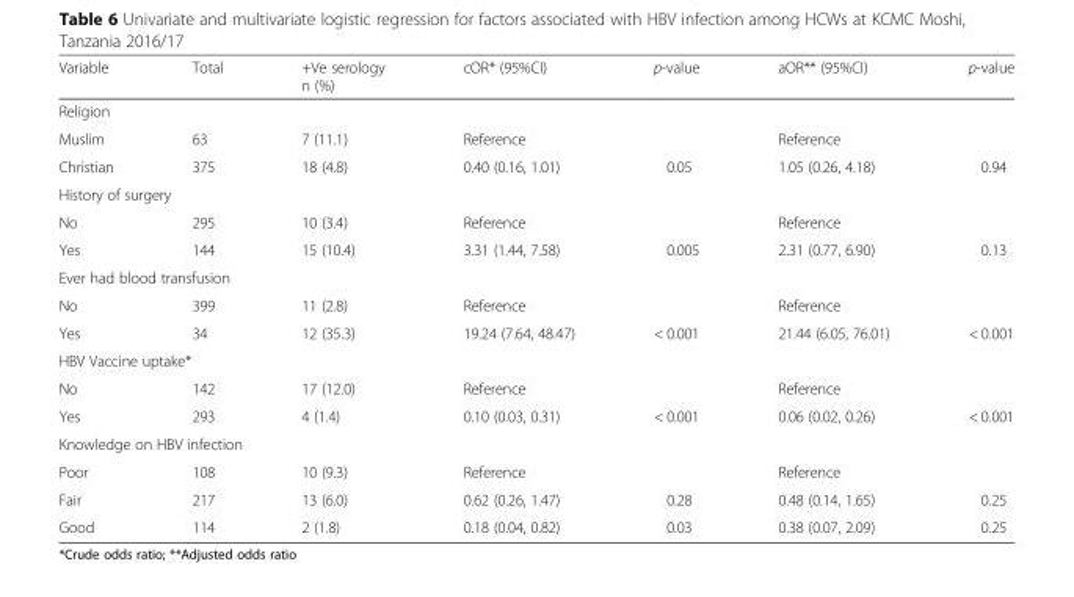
<table><thead><tr><td>Variable</td><td>Total</td><td>+Ve serology n (%)</td><td>cOR* (95%CI)</td><td>p-value</td><td>aOR** (95%CI)</td><td>p-value</td></tr></thead><tbody><tr><td colspan="7">Religion</td></tr><tr><td>Muslim</td><td>63</td><td>7 (11.1)</td><td>Reference</td><td></td><td>Reference</td><td></td></tr><tr><td>Christian</td><td>375</td><td>18 (4.8)</td><td>0.40 (0.16, 1.01)</td><td>0.05</td><td>1.05 (0.26, 4.18)</td><td>0.94</td></tr><tr><td colspan="7">History of surgery</td></tr><tr><td>No</td><td>295</td><td>10 (3.4)</td><td>Reference</td><td></td><td>Reference</td><td></td></tr><tr><td>Yes</td><td>144</td><td>15 (10.4)</td><td>3.31 (1.44, 7.58)</td><td>0.005</td><td>2.31 (0.77, 6.90)</td><td>0.13</td></tr><tr><td colspan="7">Ever had blood transfusion</td></tr><tr><td>No</td><td>399</td><td>11 (2.8)</td><td>Reference</td><td></td><td>Reference</td><td></td></tr><tr><td>Yes</td><td>34</td><td>12 (35.3)</td><td>19.24 (7.64, 48.47)</td><td>&lt; 0.001</td><td>21.44 (6.05, 76.01)</td><td>&lt; 0.001</td></tr><tr><td colspan="7">HBV Vaccine uptake*</td></tr><tr><td>No</td><td>142</td><td>17 (12.0)</td><td>Reference</td><td></td><td>Reference</td><td></td></tr><tr><td>Yes</td><td>293</td><td>4 (1.4)</td><td>0.10 (0.03, 0.31)</td><td>&lt; 0.001</td><td>0.06 (0.02, 0.26)</td><td>&lt; 0.001</td></tr><tr><td colspan="7">Knowledge on HBV infection</td></tr><tr><td>Poor</td><td>108</td><td>10 (9.3)</td><td>Reference</td><td></td><td>Reference</td><td></td></tr><tr><td>Fair</td><td>217</td><td>13 (6.0)</td><td>0.62 (0.26, 1.47)</td><td>0.28</td><td>0.48 (0.14, 1.65)</td><td>0.25</td></tr><tr><td>Good</td><td>114</td><td>2 (1.8)</td><td>0.18 (0.04, 0.82)</td><td>0.03</td><td>0.38 (0.07, 2.09)</td><td>0.25</td></tr></tbody></table>